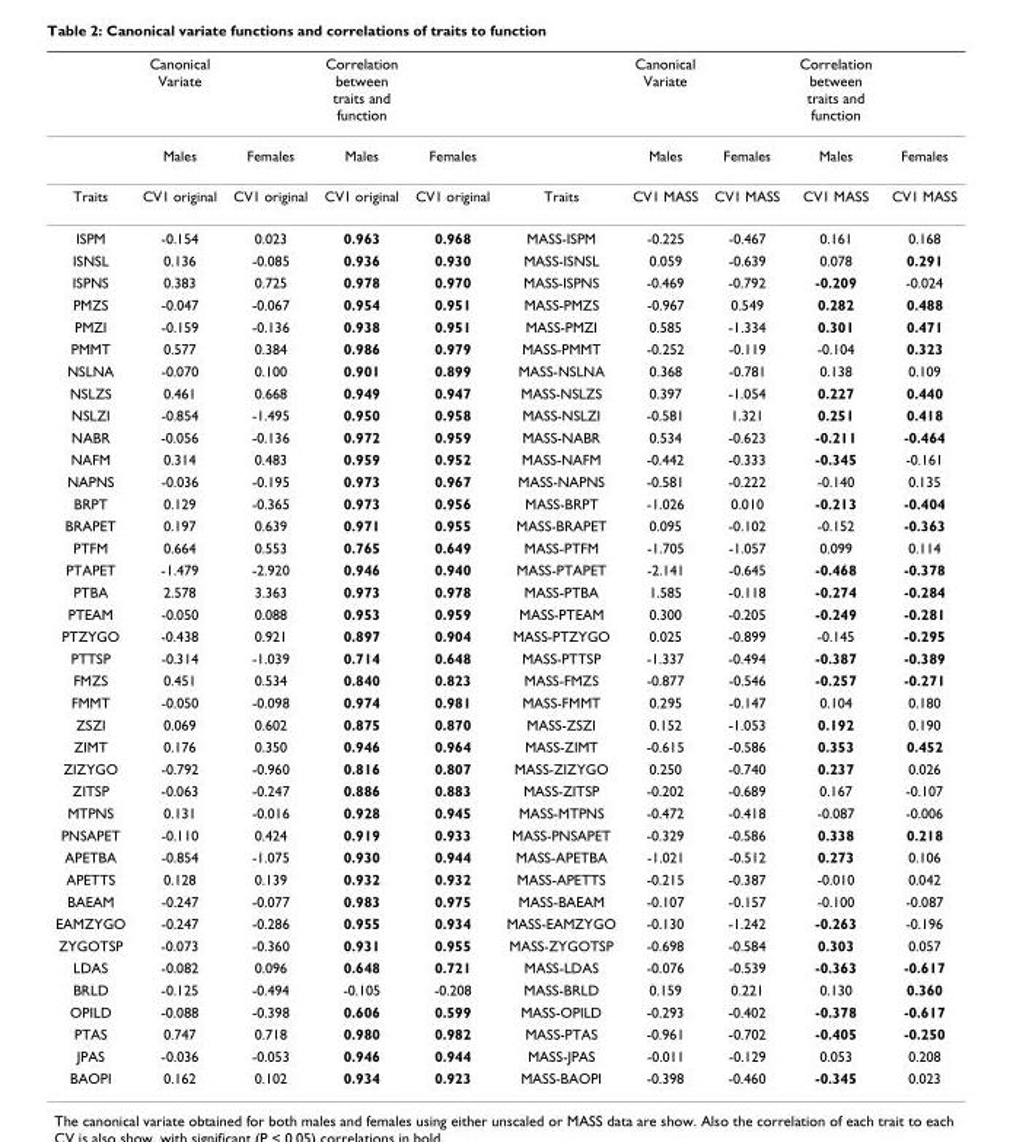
<table><thead><tr><td></td><td>Canonical Variate</td><td></td><td>Correlation between traits and function</td><td></td><td></td><td>Canonical Variate</td><td></td><td>Correlation between traits and function</td><td></td></tr></thead><tbody><tr><td></td><td>Males</td><td>Females</td><td>Males</td><td>Females</td><td></td><td>Males</td><td>Females</td><td>Males</td><td>Females</td></tr><tr><td>Traits</td><td>CV1 original</td><td>CV1 original</td><td>CV1 original</td><td>CV1 original</td><td>Traits</td><td>CV1 MASS</td><td>CV1 MASS</td><td>CV1 MASS</td><td>CV1 MASS</td></tr><tr><td>ISPM</td><td>-0.154</td><td>0.023</td><td>0.963</td><td>0.968</td><td>MASS-ISPM</td><td>-0.225</td><td>-0.467</td><td>0.161</td><td>0.168</td></tr><tr><td>ISNSL</td><td>0.136</td><td>-0.085</td><td>0.936</td><td>0.930</td><td>MASS-ISNSL</td><td>0.059</td><td>-0.639</td><td>0.078</td><td>0.291</td></tr><tr><td>ISPNS</td><td>0.383</td><td>0.725</td><td>0.978</td><td>0.970</td><td>MASS-ISPNS</td><td>-0.469</td><td>-0.792</td><td>-0.209</td><td>-0.024</td></tr><tr><td>PMZS</td><td>-0.047</td><td>-0.067</td><td>0.954</td><td>0.951</td><td>MASS-PMZS</td><td>-0.967</td><td>0.549</td><td>0.282</td><td>0.488</td></tr><tr><td>PMZI</td><td>-0.159</td><td>-0.136</td><td>0.938</td><td>0.951</td><td>MASS-PMZI</td><td>0.585</td><td>-1.334</td><td>0.301</td><td>0.471</td></tr><tr><td>PMMT</td><td>0.577</td><td>0.384</td><td>0.986</td><td>0.979</td><td>MASS-PMMT</td><td>-0.252</td><td>-0.119</td><td>-0.104</td><td>0.323</td></tr><tr><td>NSLNA</td><td>-0.070</td><td>0.100</td><td>0.901</td><td>0.899</td><td>MASS-NSLNA</td><td>0.368</td><td>-0.781</td><td>0.138</td><td>0.109</td></tr><tr><td>NSLZS</td><td>0.461</td><td>0.668</td><td>0.949</td><td>0.947</td><td>MASS-NSLZS</td><td>0.397</td><td>-1.054</td><td>0.227</td><td>0.440</td></tr><tr><td>NSLZI</td><td>-0.854</td><td>-1.495</td><td>0.950</td><td>0.958</td><td>MASS-NSLZI</td><td>-0.581</td><td>1.321</td><td>0.251</td><td>0.418</td></tr><tr><td>NABR</td><td>-0.056</td><td>-0.136</td><td>0.972</td><td>0.959</td><td>MASS-NABR</td><td>0.534</td><td>-0.623</td><td>-0.211</td><td>-0.464</td></tr><tr><td>NAFM</td><td>0.314</td><td>0.483</td><td>0.959</td><td>0.952</td><td>MASS-NAFM</td><td>-0.442</td><td>-0.333</td><td>-0.345</td><td>-0.161</td></tr><tr><td>NAPNS</td><td>-0.036</td><td>-0.195</td><td>0.973</td><td>0.967</td><td>MASS-NAPNS</td><td>-0.581</td><td>-0.222</td><td>-0.140</td><td>0.135</td></tr><tr><td>BRPT</td><td>0.129</td><td>-0.365</td><td>0.973</td><td>0.956</td><td>MASS-BRPT</td><td>-1.026</td><td>0.010</td><td>-0.213</td><td>-0.404</td></tr><tr><td>BRAPET</td><td>0.197</td><td>0.639</td><td>0.971</td><td>0.955</td><td>MASS-BRAPET</td><td>0.095</td><td>-0.102</td><td>-0.152</td><td>-0.363</td></tr><tr><td>PTFM</td><td>0.664</td><td>0.553</td><td>0.765</td><td>0.649</td><td>MASS-PTFM</td><td>-1.705</td><td>-1.057</td><td>0.099</td><td>0.114</td></tr><tr><td>PTAPET</td><td>-1.479</td><td>-2.920</td><td>0.946</td><td>0.940</td><td>MASS-PTAPET</td><td>-2.141</td><td>-0.645</td><td>-0.468</td><td>-0.378</td></tr><tr><td>PTBA</td><td>2.578</td><td>3.363</td><td>0.973</td><td>0.978</td><td>MASS-PTBA</td><td>1.585</td><td>-0.118</td><td>-0.274</td><td>-0.284</td></tr><tr><td>PTEAM</td><td>-0.050</td><td>0.088</td><td>0.953</td><td>0.959</td><td>MASS-PTEAM</td><td>0.300</td><td>-0.205</td><td>-0.249</td><td>-0.281</td></tr><tr><td>PTZYGO</td><td>-0.438</td><td>0.921</td><td>0.897</td><td>0.904</td><td>MASS-PTZYGO</td><td>0.025</td><td>-0.899</td><td>-0.145</td><td>-0.295</td></tr><tr><td>PTTSP</td><td>-0.314</td><td>-1.039</td><td>0.714</td><td>0.648</td><td>MASS-PTTSP</td><td>-1.337</td><td>-0.494</td><td>-0.387</td><td>-0.389</td></tr><tr><td>FMZS</td><td>0.451</td><td>0.534</td><td>0.840</td><td>0.823</td><td>MASS-FMZS</td><td>-0.877</td><td>-0.546</td><td>-0.257</td><td>-0.271</td></tr><tr><td>FMMT</td><td>-0.050</td><td>-0.098</td><td>0.974</td><td>0.981</td><td>MASS-FMMT</td><td>0.295</td><td>-0.147</td><td>0.104</td><td>0.180</td></tr><tr><td>ZSZI</td><td>0.069</td><td>0.602</td><td>0.875</td><td>0.870</td><td>MASS-ZSZI</td><td>0.152</td><td>-1.053</td><td>0.192</td><td>0.190</td></tr><tr><td>ZIMT</td><td>0.176</td><td>0.350</td><td>0.946</td><td>0.964</td><td>MASS-ZIMT</td><td>-0.615</td><td>-0.586</td><td>0.353</td><td>0.452</td></tr><tr><td>ZIZYGO</td><td>-0.792</td><td>-0.960</td><td>0.816</td><td>0.807</td><td>MASS-ZIZYGO</td><td>0.250</td><td>-0.740</td><td>0.237</td><td>0.026</td></tr><tr><td>ZITSP</td><td>-0.063</td><td>-0.247</td><td>0.886</td><td>0.883</td><td>MASS-ZITSP</td><td>-0.202</td><td>-0.689</td><td>0.167</td><td>-0.107</td></tr><tr><td>MTPNS</td><td>0.131</td><td>-0.016</td><td>0.928</td><td>0.945</td><td>MASS-MTPNS</td><td>-0.472</td><td>-0.418</td><td>-0.087</td><td>-0.006</td></tr><tr><td>PNSAPET</td><td>-0.110</td><td>0.424</td><td>0.919</td><td>0.933</td><td>MASS-PNSAPET</td><td>-0.329</td><td>-0.586</td><td>0.338</td><td>0.218</td></tr><tr><td>APETBA</td><td>-0.854</td><td>-1.075</td><td>0.930</td><td>0.944</td><td>MASS-APETBA</td><td>-1.021</td><td>-0.512</td><td>0.273</td><td>0.106</td></tr><tr><td>APETTS</td><td>0.128</td><td>0.139</td><td>0.932</td><td>0.932</td><td>MASS-APETTS</td><td>-0.215</td><td>-0.387</td><td>-0.010</td><td>0.042</td></tr><tr><td>BAEAM</td><td>-0.247</td><td>-0.077</td><td>0.983</td><td>0.975</td><td>MASS-BAEAM</td><td>-0.107</td><td>-0.157</td><td>-0.100</td><td>-0.087</td></tr><tr><td>EAMZYGO</td><td>-0.247</td><td>-0.286</td><td>0.955</td><td>0.934</td><td>MASS-EAMZYGO</td><td>-0.130</td><td>-1.242</td><td>-0.263</td><td>-0.196</td></tr><tr><td>ZYGOTSP</td><td>-0.073</td><td>-0.360</td><td>0.931</td><td>0.955</td><td>MASS-ZYGOTSP</td><td>-0.698</td><td>-0.584</td><td>0.303</td><td>0.057</td></tr><tr><td>LDAS</td><td>-0.082</td><td>0.096</td><td>0.648</td><td>0.721</td><td>MASS-LDAS</td><td>-0.076</td><td>-0.539</td><td>-0.363</td><td>-0.617</td></tr><tr><td>BRLD</td><td>-0.125</td><td>-0.494</td><td>-0.105</td><td>-0.208</td><td>MASS-BRLD</td><td>0.159</td><td>0.221</td><td>0.130</td><td>0.360</td></tr><tr><td>OPILD</td><td>-0.088</td><td>-0.398</td><td>0.606</td><td>0.599</td><td>MASS-OPILD</td><td>-0.293</td><td>-0.402</td><td>-0.378</td><td>-0.617</td></tr><tr><td>PTAS</td><td>0.747</td><td>0.718</td><td>0.980</td><td>0.982</td><td>MASS-PTAS</td><td>-0.961</td><td>-0.702</td><td>-0.405</td><td>-0.250</td></tr><tr><td>JPAS</td><td>-0.036</td><td>-0.053</td><td>0.946</td><td>0.944</td><td>MASS-JPAS</td><td>-0.011</td><td>-0.129</td><td>0.053</td><td>0.208</td></tr><tr><td>BAOPI</td><td>0.162</td><td>0.102</td><td>0.934</td><td>0.923</td><td>MASS-BAOPI</td><td>-0.398</td><td>-0.460</td><td>-0.345</td><td>0.023</td></tr></tbody></table>